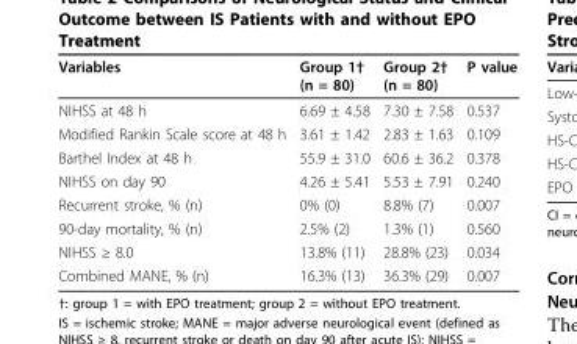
<table><thead><tr><td>Variables</td><td>Group 1† (n = 80)</td><td>Group 2† (n = 80)</td><td>P value</td></tr></thead><tbody><tr><td>NIHSS at 48 h</td><td>6.69 ± 4.58</td><td>7.30 ± 7.58</td><td>0.537</td></tr><tr><td>Modified Rankin Scale score at 48 h</td><td>3.61 ± 1.42</td><td>2.83 ± 1.63</td><td>0.109</td></tr><tr><td>Barthel Index at 48 h</td><td>55.9 ± 31.0</td><td>60.6 ± 36.2</td><td>0.378</td></tr><tr><td>NIHSS on day 90</td><td>4.26 ± 5.41</td><td>5.53 ± 7.91</td><td>0.240</td></tr><tr><td>Recurrent stroke, % (n)</td><td>0% (0)</td><td>8.8% (7)</td><td>0.007</td></tr><tr><td>90-day mortality, % (n)</td><td>2.5% (2)</td><td>1.3% (1)</td><td>0.560</td></tr><tr><td>NIHSS ≥ 8.0</td><td>13.8% (11)</td><td>28.8% (23)</td><td>0.034</td></tr><tr><td>Combined MANE, % (n)</td><td>16.3% (13)</td><td>36.3% (29)</td><td>0.007</td></tr></tbody></table>